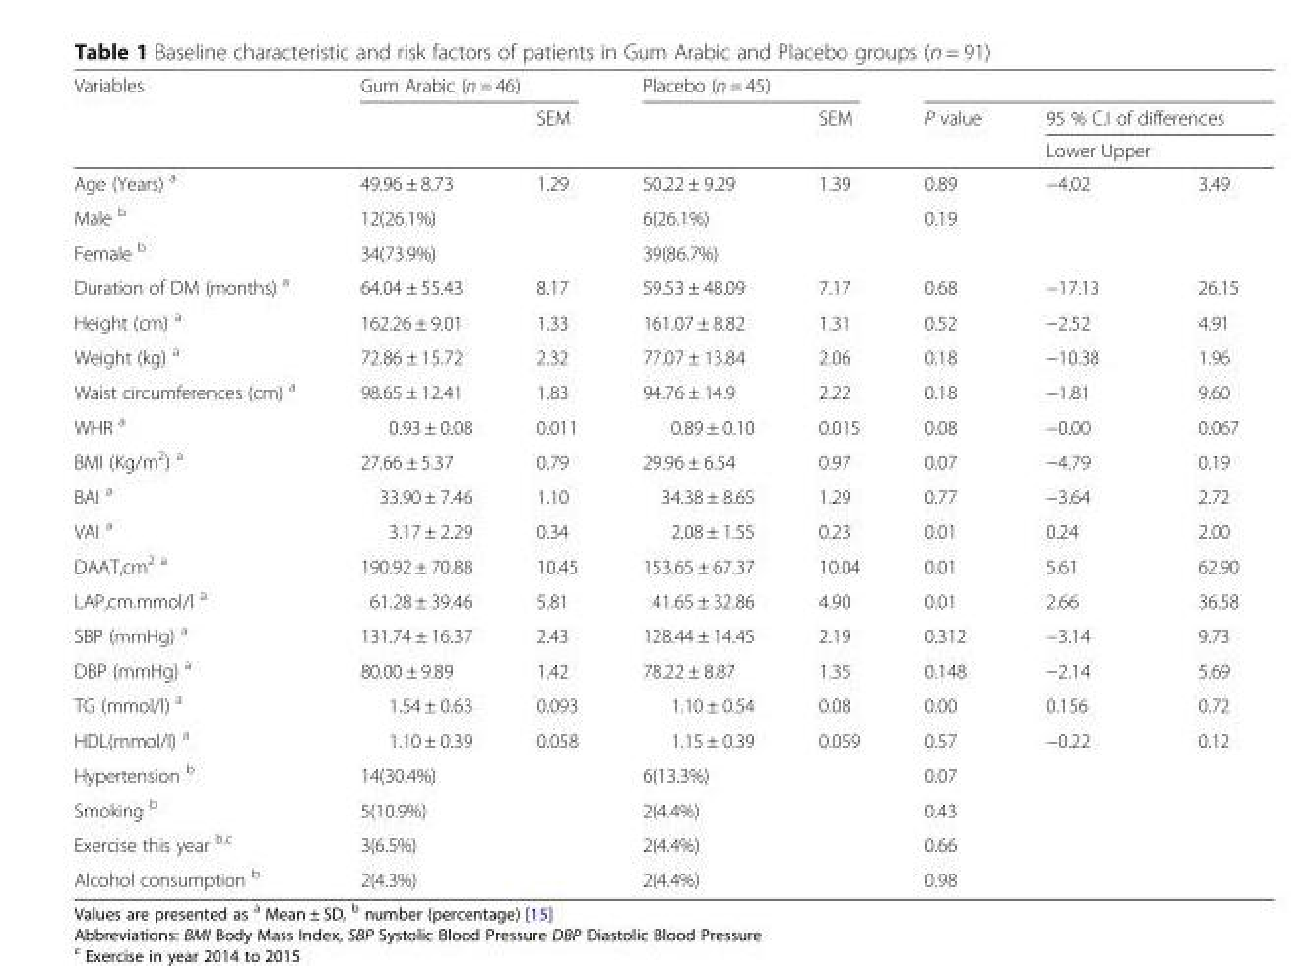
<table><thead><tr><td rowspan="3">Variables</td><td colspan="2">Gum Arabic (n = 46)</td><td colspan="2">Placebo (n = 45)</td><td rowspan="3">P value</td><td></td><td></td></tr><tr><td rowspan="2"></td><td rowspan="2">SEM</td><td rowspan="2"></td><td rowspan="2">SEM</td><td rowspan="2" colspan="2">95 % C.I of differences Lower Upper</td></tr><tr></tr></thead><tbody><tr><td>Age (Years) <sup>a</sup></td><td>49.96 ± 8.73</td><td>1.29</td><td>50.22 ± 9.29</td><td>1.39</td><td>0.89</td><td>−4.02</td><td>3.49</td></tr><tr><td>Male <sup>b</sup></td><td>12(26.1%)</td><td></td><td>6(26.1%)</td><td></td><td rowspan="2">0.19</td><td></td><td></td></tr><tr><td>Female <sup>b</sup></td><td>34(73.9%)</td><td></td><td>39(86.7%)</td><td></td><td></td><td></td></tr><tr><td>Duration of DM (months) <sup>a</sup></td><td>64.04 ± 55.43</td><td>8.17</td><td>59.53 ± 48.09</td><td>7.17</td><td>0.68</td><td>−17.13</td><td>26.15</td></tr><tr><td>Height (cm) <sup>a</sup></td><td>162.26 ± 9.01</td><td>1.33</td><td>161.07 ± 8.82</td><td>1.31</td><td>0.52</td><td>−2.52</td><td>4.91</td></tr><tr><td>Weight (kg) <sup>a</sup></td><td>72.86 ± 15.72</td><td>2.32</td><td>77.07 ± 13.84</td><td>2.06</td><td>0.18</td><td>−10.38</td><td>1.96</td></tr><tr><td>Waist circumferences (cm) <sup>a</sup></td><td>98.65 ± 12.41</td><td>1.83</td><td>94.76 ± 14.9</td><td>2.22</td><td>0.18</td><td>−1.81</td><td>9.60</td></tr><tr><td>WHR <sup>a</sup></td><td>0.93 ± 0.08</td><td>0.011</td><td>0.89 ± 0.10</td><td>0.015</td><td>0.08</td><td>−0.00</td><td>0.067</td></tr><tr><td>BMI (Kg/m<sup>2</sup>) <sup>a</sup></td><td>27.66 ± 5.37</td><td>0.79</td><td>29.96 ± 6.54</td><td>0.97</td><td>0.07</td><td>−4.79</td><td>0.19</td></tr><tr><td>BAI <sup>a</sup></td><td>33.90 ± 7.46</td><td>1.10</td><td>34.38 ± 8.65</td><td>1.29</td><td>0.77</td><td>−3.64</td><td>2.72</td></tr><tr><td>VAI <sup>a</sup></td><td>3.17 ± 2.29</td><td>0.34</td><td>2.08 ± 1.55</td><td>0.23</td><td>0.01</td><td>0.24</td><td>2.00</td></tr><tr><td>DAAT,cm<sup>2 a</sup></td><td>190.92 ± 70.88</td><td>10.45</td><td>153.65 ± 67.37</td><td>10.04</td><td>0.01</td><td>5.61</td><td>62.90</td></tr><tr><td>LAP,cm.mmol/l <sup>a</sup></td><td>61.28 ± 39.46</td><td>5.81</td><td>41.65 ± 32.86</td><td>4.90</td><td>0.01</td><td>2.66</td><td>36.58</td></tr><tr><td>SBP (mmHg) <sup>a</sup></td><td>131.74 ± 16.37</td><td>2.43</td><td>128.44 ± 14.45</td><td>2.19</td><td>0.312</td><td>−3.14</td><td>9.73</td></tr><tr><td>DBP (mmHg) <sup>a</sup></td><td>80.00 ± 9.89</td><td>1.42</td><td>78.22 ± 8.87</td><td>1.35</td><td>0.148</td><td>−2.14</td><td>5.69</td></tr><tr><td>TG (mmol/l) <sup>a</sup></td><td>1.54 ± 0.63</td><td>0.093</td><td>1.10 ± 0.54</td><td>0.08</td><td>0.00</td><td>0.156</td><td>0.72</td></tr><tr><td>HDL(mmol/l) <sup>a</sup></td><td>1.10 ± 0.39</td><td>0.058</td><td>1.15 ± 0.39</td><td>0.059</td><td>0.57</td><td>−0.22</td><td>0.12</td></tr><tr><td>Hypertension <sup>b</sup></td><td>14(30.4%)</td><td></td><td>6(13.3%)</td><td></td><td>0.07</td><td></td><td></td></tr><tr><td>Smoking <sup>b</sup></td><td>5(10.9%)</td><td></td><td>2(4.4%)</td><td></td><td>0.43</td><td></td><td></td></tr><tr><td>Exercise this year <sup>b,c</sup></td><td>3(6.5%)</td><td></td><td>2(4.4%)</td><td></td><td>0.66</td><td></td><td></td></tr><tr><td>Alcohol consumption <sup>b</sup></td><td>2(4.3%)</td><td></td><td>2(4.4%)</td><td></td><td>0.98</td><td></td><td></td></tr></tbody></table>